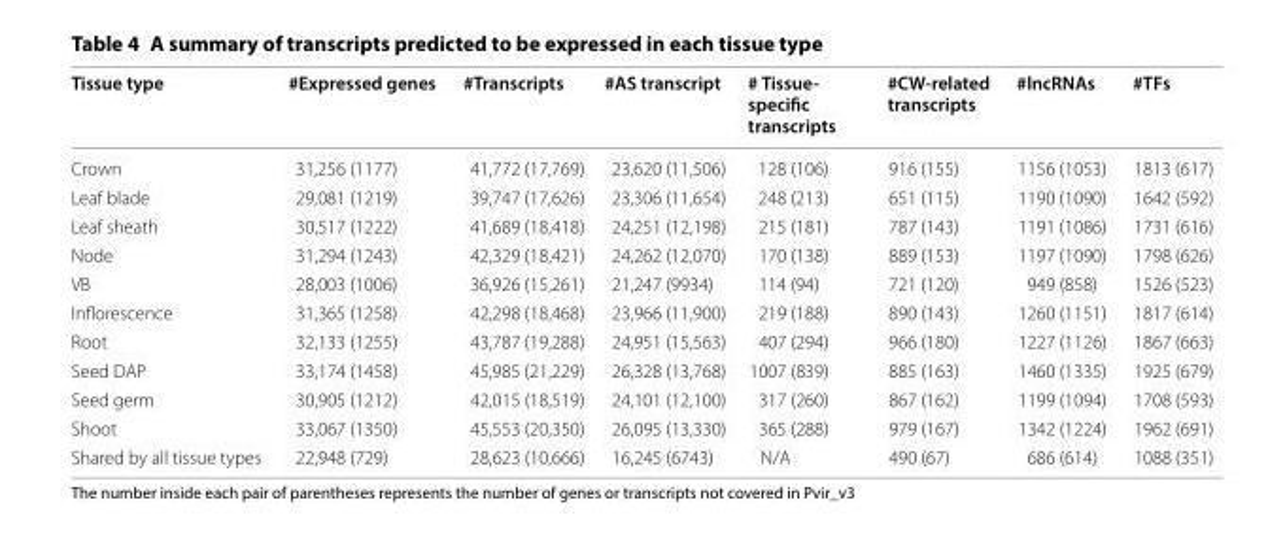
<table><thead><tr><td>Tissue type</td><td>#Expressed genes</td><td>#Transcripts</td><td>#AS transcript</td><td># Tissue- specific transcripts</td><td>#CW-related transcripts</td><td>#lncRNAs</td><td>#TFs</td></tr></thead><tbody><tr><td>Crown</td><td>31,256 (1177)</td><td>41,772 (17,769)</td><td>23,620 (11,506)</td><td>128 (106)</td><td>916 (155)</td><td>1156 (1053)</td><td>1813 (617)</td></tr><tr><td>Leaf blade</td><td>29,081 (1219)</td><td>39,747 (17,626)</td><td>23,306 (11,654)</td><td>248 (213)</td><td>651 (115)</td><td>1190 (1090)</td><td>1642 (592)</td></tr><tr><td>Leaf sheath</td><td>30,517 (1222)</td><td>41,689 (18,418)</td><td>24,251 (12,198)</td><td>215 (181)</td><td>787 (143)</td><td>1191 (1086)</td><td>1731 (616)</td></tr><tr><td>Node</td><td>31,294 (1243)</td><td>42,329 (18,421)</td><td>24,262 (12,070)</td><td>170 (138)</td><td>889 (153)</td><td>1197 (1090)</td><td>1798 (626)</td></tr><tr><td>VB</td><td>28,003 (1006)</td><td>36,926 (15,261)</td><td>21,247 (9934)</td><td>114 (94)</td><td>721 (120)</td><td>949 (858)</td><td>1526 (523)</td></tr><tr><td>Inflorescence</td><td>31,365 (1258)</td><td>42,298 (18,468)</td><td>23,966 (11,900)</td><td>219 (188)</td><td>890 (143)</td><td>1260 (1151)</td><td>1817 (614)</td></tr><tr><td>Root</td><td>32,133 (1255)</td><td>43,787 (19,288)</td><td>24,951 (15,563)</td><td>407 (294)</td><td>966 (180)</td><td>1227 (1126)</td><td>1867 (663)</td></tr><tr><td>Seed DAP</td><td>33,174 (1458)</td><td>45,985 (21,229)</td><td>26,328 (13,768)</td><td>1007 (839)</td><td>885 (163)</td><td>1460 (1335)</td><td>1925 (679)</td></tr><tr><td>Seed germ</td><td>30,905 (1212)</td><td>42,015 (18,519)</td><td>24,101 (12,100)</td><td>317 (260)</td><td>867 (162)</td><td>1199 (1094)</td><td>1708 (593)</td></tr><tr><td>Shoot</td><td>33,067 (1350)</td><td>45,553 (20,350)</td><td>26,095 (13,330)</td><td>365 (288)</td><td>979 (167)</td><td>1342 (1224)</td><td>1962 (691)</td></tr><tr><td>Shared by all tissue types</td><td>22,948 (729)</td><td>28,623 (10,666)</td><td>16,245 (6743)</td><td>N/A</td><td>490 (67)</td><td>686 (614)</td><td>1088 (351)</td></tr></tbody></table>